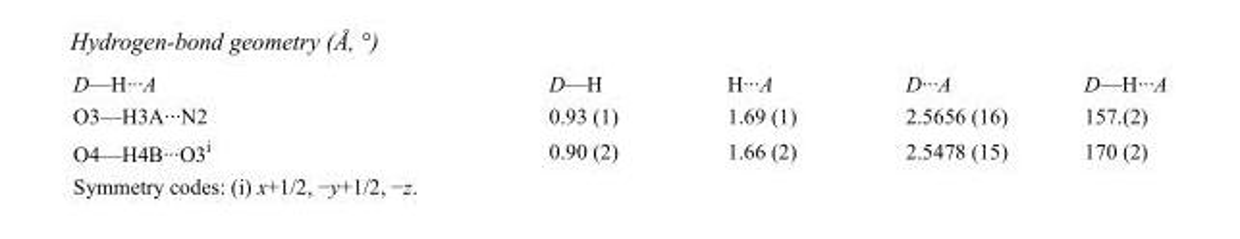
<table><tbody><tr><td>D—H···A</td><td>D—H</td><td>H···A</td><td>D···A</td><td>D—H···A</td></tr><tr><td>O3—H3A···N2</td><td>0.93 (1)</td><td>1.69 (1)</td><td>2.5656 (16)</td><td>157.(2)</td></tr><tr><td>O4—H4B···O3<sup>i</sup></td><td>0.90 (2)</td><td>1.66 (2)</td><td>2.5478 (15)</td><td>170 (2)</td></tr></tbody></table>